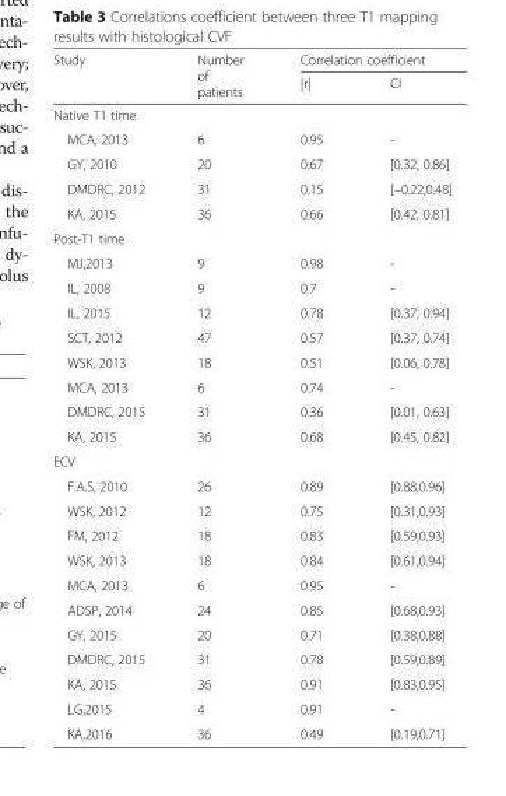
<table><thead><tr><td rowspan="2">Study</td><td rowspan="2">Number of patients</td><td colspan="2">Correlation coefficient</td></tr><tr><td>|r|</td><td>CI</td></tr></thead><tbody><tr><td colspan="4">Native T1 time</td></tr><tr><td>MCA, 2013</td><td>6</td><td>0.95</td><td>-</td></tr><tr><td>GY, 2010</td><td>20</td><td>0.67</td><td>[0.32, 0.86]</td></tr><tr><td>DMDRC, 2012</td><td>31</td><td>0.15</td><td>[–0.22,0.48]</td></tr><tr><td>KA, 2015</td><td>36</td><td>0.66</td><td>[0.42, 0.81]</td></tr><tr><td colspan="4">Post-T1 time</td></tr><tr><td>MJ,2013</td><td>9</td><td>0.98</td><td>-</td></tr><tr><td>IL, 2008</td><td>9</td><td>0.7</td><td>-</td></tr><tr><td>IL, 2015</td><td>12</td><td>0.78</td><td>[0.37, 0.94]</td></tr><tr><td>SCT, 2012</td><td>47</td><td>0.57</td><td>[0.37, 0.74]</td></tr><tr><td>WSK, 2013</td><td>18</td><td>0.51</td><td>[0.06, 0.78]</td></tr><tr><td>MCA, 2013</td><td>6</td><td>0.74</td><td>-</td></tr><tr><td>DMDRC, 2015</td><td>31</td><td>0.36</td><td>[0.01, 0.63]</td></tr><tr><td>KA, 2015</td><td>36</td><td>0.68</td><td>[0.45, 0.82]</td></tr><tr><td colspan="4">ECV</td></tr><tr><td>F.A.S, 2010</td><td>26</td><td>0.89</td><td>[0.88,0.96]</td></tr><tr><td>WSK, 2012</td><td>12</td><td>0.75</td><td>[0.31,0.93]</td></tr><tr><td>FM, 2012</td><td>18</td><td>0.83</td><td>[0.59,0.93]</td></tr><tr><td>WSK, 2013</td><td>18</td><td>0.84</td><td>[0.61,0.94]</td></tr><tr><td>MCA, 2013</td><td>6</td><td>0.95</td><td>-</td></tr><tr><td>ADSP, 2014</td><td>24</td><td>0.85</td><td>[0.68,0.93]</td></tr><tr><td>GY, 2015</td><td>20</td><td>0.71</td><td>[0.38,0.88]</td></tr><tr><td>DMDRC, 2015</td><td>31</td><td>0.78</td><td>[0.59,0.89]</td></tr><tr><td>KA, 2015</td><td>36</td><td>0.91</td><td>[0.83,0.95]</td></tr><tr><td>LG,2015</td><td>4</td><td>0.91</td><td>-</td></tr><tr><td>KA,2016</td><td>36</td><td>0.49</td><td>[0.19,0.71]</td></tr></tbody></table>